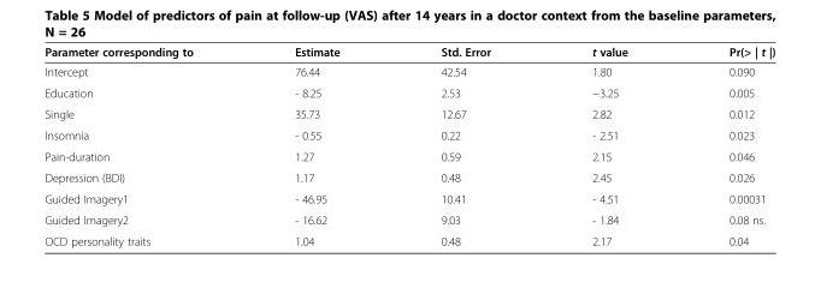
<table><thead><tr><td>Parameter corresponding to</td><td>Estimate</td><td>Std. Error</td><td>t value</td><td>Pr(&gt; | t |)</td></tr></thead><tbody><tr><td>Intercept</td><td>76.44</td><td>42.54</td><td>1.80</td><td>0.090</td></tr><tr><td>Education</td><td>- 8.25</td><td>2.53</td><td>−3.25</td><td>0.005</td></tr><tr><td>Single</td><td>35.73</td><td>12.67</td><td>2.82</td><td>0.012</td></tr><tr><td>Insomnia</td><td>- 0.55</td><td>0.22</td><td>- 2.51</td><td>0.023</td></tr><tr><td>Pain-duration</td><td>1.27</td><td>0.59</td><td>2.15</td><td>0.046</td></tr><tr><td>Depression (BDI)</td><td>1.17</td><td>0.48</td><td>2.45</td><td>0.026</td></tr><tr><td>Guided Imagery1</td><td>- 46.95</td><td>10.41</td><td>- 4.51</td><td>0.00031</td></tr><tr><td>Guided Imagery2</td><td>- 16.62</td><td>9.03</td><td>- 1.84</td><td>0.08 ns.</td></tr><tr><td>OCD personality traits</td><td>1.04</td><td>0.48</td><td>2.17</td><td>0.04</td></tr></tbody></table>